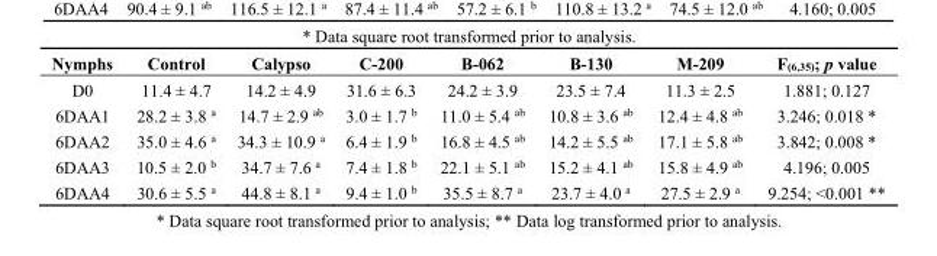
<table><thead><tr><td>Nymphs</td><td>Control</td><td>Calypso</td><td>C-200</td><td>B-062</td><td>B-130</td><td>M-209</td><td>F<sub>(6,35)</sub>; p value</td></tr></thead><tbody><tr><td>D0</td><td>11.4 ± 4.7</td><td>14.2 ± 4.9</td><td>31.6 ± 6.3</td><td>24.2 ± 3.9</td><td>23.5 ± 7.4</td><td>11.3 ± 2.5</td><td>1.881; 0.127</td></tr><tr><td>6DAA1</td><td>28.2 ± 3.8 <sup>a</sup></td><td>14.7 ± 2.9 <sup>ab</sup></td><td>3.0 ± 1.7 <sup>b</sup></td><td>11.0 ± 5.4 <sup>ab</sup></td><td>10.8 ± 3.6 <sup>ab</sup></td><td>12.4 ± 4.8 <sup>ab</sup></td><td>3.246; 0.018 *</td></tr><tr><td>6DAA2</td><td>35.0 ± 4.6 a</td><td>34.3 ± 10.9 a</td><td>6.4 ± 1.9 b</td><td>16.8 ± 4.5 <sup>ab</sup></td><td>14.2 ± 5.5 <sup>ab</sup></td><td>17.1 ± 5.8 <sup>ab</sup></td><td>3.842; 0.008 *</td></tr><tr><td>6DAA3</td><td>10.5 ± 2.0 b</td><td>34.7 ± 7.6 a</td><td>7.4 ± 1.8 b</td><td>22.1 ± 5.1 <sup>ab</sup></td><td>15.2 ± 4.1 <sup>ab</sup></td><td>15.8 ± 4.9 <sup>ab</sup></td><td>4.196; 0.005</td></tr><tr><td>6DAA4</td><td>30.6 ± 5.5 a</td><td>44.8 ± 8.1 a</td><td>9.4 ± 1.0 b</td><td>35.5 ± 8.7 a</td><td>23.7 ± 4.0 a</td><td>27.5 ± 2.9 a</td><td>9.254; &lt;0.001 **</td></tr></tbody></table>